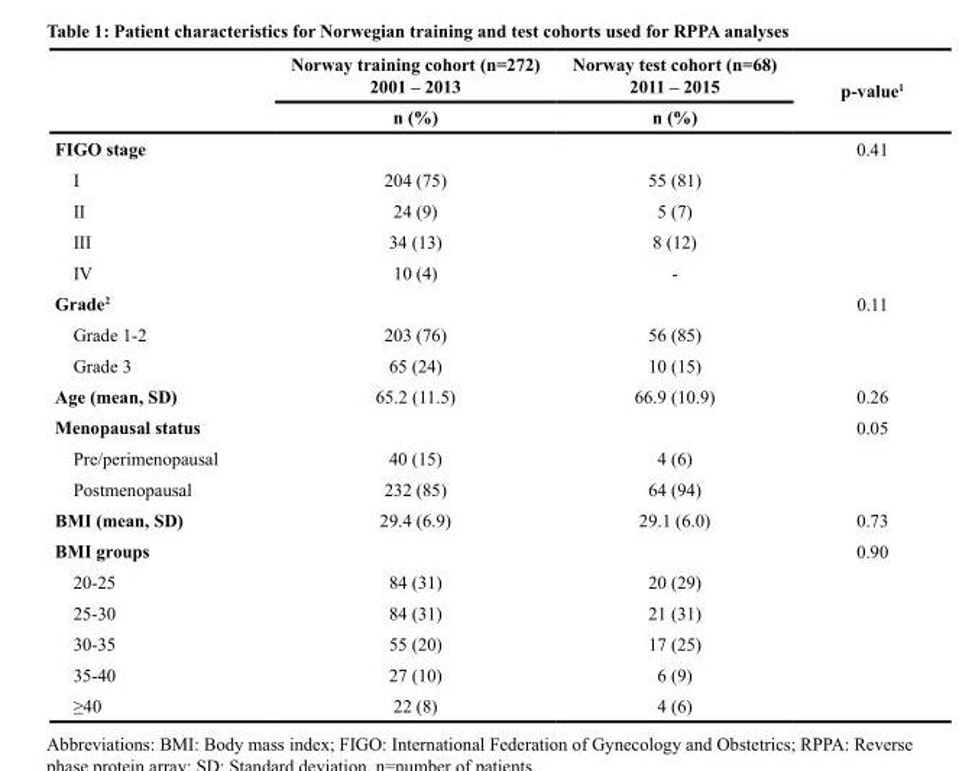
<table><thead><tr><td rowspan="2"></td><td rowspan="2">Norway training cohort (n=272) 2001 – 2013 n (%)</td><td rowspan="2">Norway test cohort (n=68) 2011 – 2015 n (%)</td><td rowspan="2">p-value<sup>1</sup></td></tr><tr></tr></thead><tbody><tr><td>FIGO stage</td><td></td><td></td><td>0.41</td></tr><tr><td>I</td><td>204 (75)</td><td>55 (81)</td><td></td></tr><tr><td>II</td><td>24 (9)</td><td>5 (7)</td><td></td></tr><tr><td>III</td><td>34 (13)</td><td>8 (12)</td><td></td></tr><tr><td>IV</td><td>10 (4)</td><td>-</td><td></td></tr><tr><td>Grade<sup>2</sup></td><td></td><td></td><td>0.11</td></tr><tr><td>Grade 1-2</td><td>203 (76)</td><td>56 (85)</td><td></td></tr><tr><td>Grade 3</td><td>65 (24)</td><td>10 (15)</td><td></td></tr><tr><td>Age (mean, SD)</td><td>65.2 (11.5)</td><td>66.9 (10.9)</td><td>0.26</td></tr><tr><td>Menopausal status</td><td></td><td></td><td>0.05</td></tr><tr><td>Pre/perimenopausal</td><td>40 (15)</td><td>4 (6)</td><td></td></tr><tr><td>Postmenopausal</td><td>232 (85)</td><td>64 (94)</td><td></td></tr><tr><td>BMI (mean, SD)</td><td>29.4 (6.9)</td><td>29.1 (6.0)</td><td>0.73</td></tr><tr><td>BMI groups</td><td></td><td></td><td>0.90</td></tr><tr><td>20-25</td><td>84 (31)</td><td>20 (29)</td><td></td></tr><tr><td>25-30</td><td>84 (31)</td><td>21 (31)</td><td></td></tr><tr><td>30-35</td><td>55 (20)</td><td>17 (25)</td><td></td></tr><tr><td>35-40</td><td>27 (10)</td><td>6 (9)</td><td></td></tr><tr><td>≥40</td><td>22 (8)</td><td>4 (6)</td><td></td></tr></tbody></table>